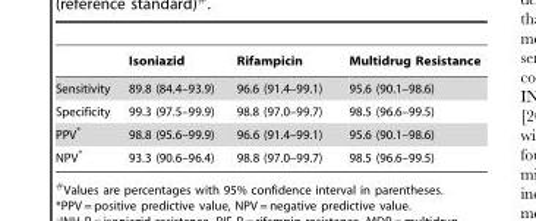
<table><thead><tr><td></td><td>Isoniazid</td><td>Rifampicin</td><td>Multidrug Resistance</td></tr></thead><tbody><tr><td>Sensitivity</td><td>89.8 (84.4–93.9)</td><td>96.6 (91.4–99.1)</td><td>95.6 (90.1–98.6)</td></tr><tr><td>Specificity</td><td>99.3 (97.5–99.9)</td><td>98.8 (97.0–99.7)</td><td>98.5 (96.6–99.5)</td></tr><tr><td>PPV*</td><td>98.8 (95.6–99.9)</td><td>96.6 (91.4–99.1)</td><td>95.6 (90.1–98.6)</td></tr><tr><td>NPV*</td><td>93.3 (90.6–96.4)</td><td>98.8 (97.0–99.7)</td><td>98.5 (96.6–99.5)</td></tr></tbody></table>